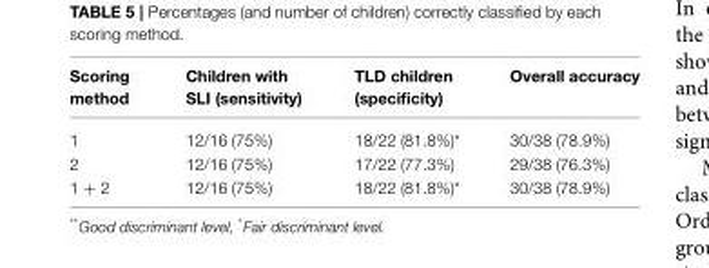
<table><thead><tr><td>Scoring method</td><td>Children with SLI (sensitivity)</td><td>TLD children (specificity)</td><td>Overall accuracy</td></tr></thead><tbody><tr><td>1</td><td>12/16 (75%)</td><td>18/22 (81.8%)*</td><td>30/38 (78.9%)</td></tr><tr><td>2</td><td>12/16 (75%)</td><td>17/22 (77.3%)</td><td>29/38 (76.3%)</td></tr><tr><td>1 + 2</td><td>12/16 (75%)</td><td>18/22 (81.8%)*</td><td>30/38 (78.9%)</td></tr></tbody></table>